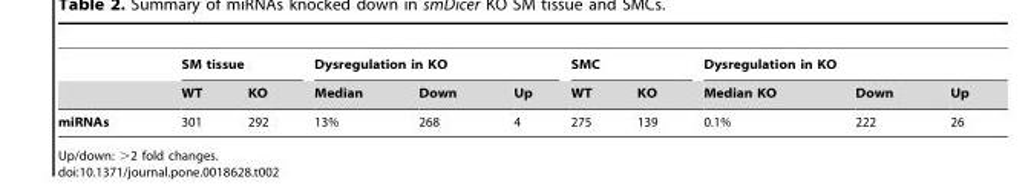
<table><thead><tr><td rowspan="2"></td><td colspan="2">SM tissue</td><td colspan="3">Dysregulation in KO</td><td colspan="2">SMC</td><td colspan="3">Dysregulation in KO</td></tr><tr><td>WT</td><td>KO</td><td>Median</td><td>Down</td><td>Up</td><td>WT</td><td>KO</td><td>Median KO</td><td>Down</td><td>Up</td></tr></thead><tbody><tr><td>miRNAs</td><td>301</td><td>292</td><td>13%</td><td>268</td><td>4</td><td>275</td><td>139</td><td>0.1%</td><td>222</td><td>26</td></tr></tbody></table>